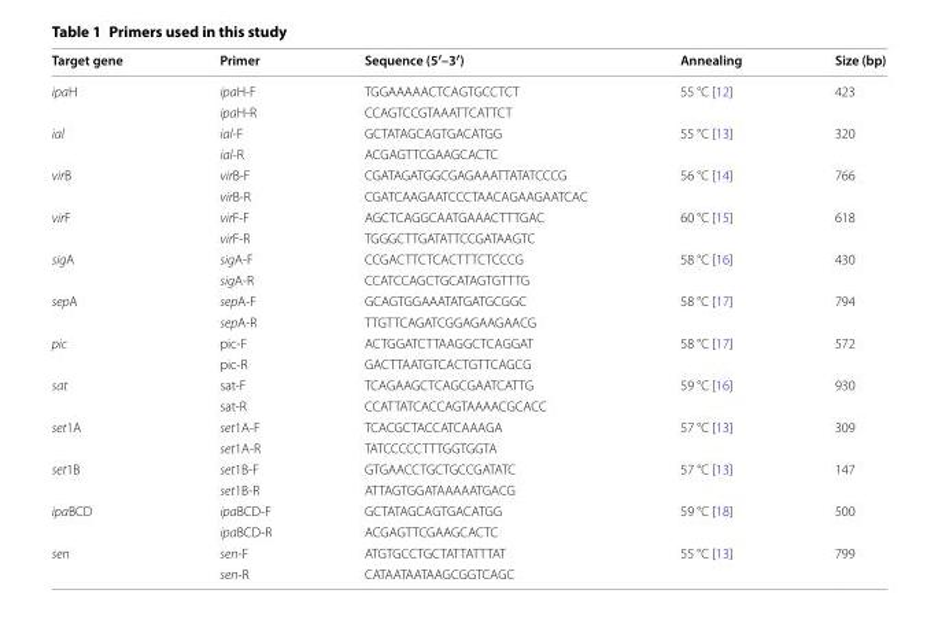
<table><thead><tr><td>Target gene</td><td>Primer</td><td>Sequence (5′–3′)</td><td>Annealing</td><td>Size (bp)</td></tr></thead><tbody><tr><td rowspan="2">ipaH</td><td>ipaH-F</td><td>TGGAAAAACTCAGTGCCTCT</td><td rowspan="2">55 °C [12]</td><td rowspan="2">423</td></tr><tr><td>ipaH-R</td><td>CCAGTCCGTAAATTCATTCT</td></tr><tr><td rowspan="2">ial</td><td>ial-F</td><td>GCTATAGCAGTGACATGG</td><td rowspan="2">55 °C [13]</td><td rowspan="2">320</td></tr><tr><td>ial-R</td><td>ACGAGTTCGAAGCACTC</td></tr><tr><td rowspan="2">virB</td><td>virB-F</td><td>CGATAGATGGCGAGAAATTATATCCCG</td><td rowspan="2">56 °C [14]</td><td rowspan="2">766</td></tr><tr><td>virB-R</td><td>CGATCAAGAATCCCTAACAGAAGAATCAC</td></tr><tr><td rowspan="2">virF</td><td>virF-F</td><td>AGCTCAGGCAATGAAACTTTGAC</td><td rowspan="2">60 °C [15]</td><td rowspan="2">618</td></tr><tr><td>virF-R</td><td>TGGGCTTGATATTCCGATAAGTC</td></tr><tr><td rowspan="2">sigA</td><td>sigA-F</td><td>CCGACTTCTCACTTTCTCCCG</td><td rowspan="2">58 °C [16]</td><td rowspan="2">430</td></tr><tr><td>sigA-R</td><td>CCATCCAGCTGCATAGTGTTTG</td></tr><tr><td rowspan="2">sepA</td><td>sepA-F</td><td>GCAGTGGAAATATGATGCGGC</td><td rowspan="2">58 °C [17]</td><td rowspan="2">794</td></tr><tr><td>sepA-R</td><td>TTGTTCAGATCGGAGAAGAACG</td></tr><tr><td rowspan="2">pic</td><td>pic-F</td><td>ACTGGATCTTAAGGCTCAGGAT</td><td rowspan="2">58 °C [17]</td><td rowspan="2">572</td></tr><tr><td>pic-R</td><td>GACTTAATGTCACTGTTCAGCG</td></tr><tr><td rowspan="2">sat</td><td>sat-F</td><td>TCAGAAGCTCAGCGAATCATTG</td><td rowspan="2">59 °C [16]</td><td rowspan="2">930</td></tr><tr><td>sat-R</td><td>CCATTATCACCAGTAAAACGCACC</td></tr><tr><td rowspan="2">set1A</td><td>set1A-F</td><td>TCACGCTACCATCAAAGA</td><td rowspan="2">57 °C [13]</td><td rowspan="2">309</td></tr><tr><td>set1A-R</td><td>TATCCCCCTTTGGTGGTA</td></tr><tr><td rowspan="2">set1B</td><td>set1B-F</td><td>GTGAACCTGCTGCCGATATC</td><td rowspan="2">57 °C [13]</td><td rowspan="2">147</td></tr><tr><td>set1B-R</td><td>ATTAGTGGATAAAAATGACG</td></tr><tr><td rowspan="2">ipaBCD</td><td>ipaBCD-F</td><td>GCTATAGCAGTGACATGG</td><td rowspan="2">59 °C [18]</td><td rowspan="2">500</td></tr><tr><td>ipaBCD-R</td><td>ACGAGTTCGAAGCACTC</td></tr><tr><td rowspan="2">sen</td><td>sen-F</td><td>ATGTGCCTGCTATTATTTAT</td><td rowspan="2">55 °C [13]</td><td rowspan="2">799</td></tr><tr><td>sen-R</td><td>CATAATAATAAGCGGTCAGC</td></tr></tbody></table>